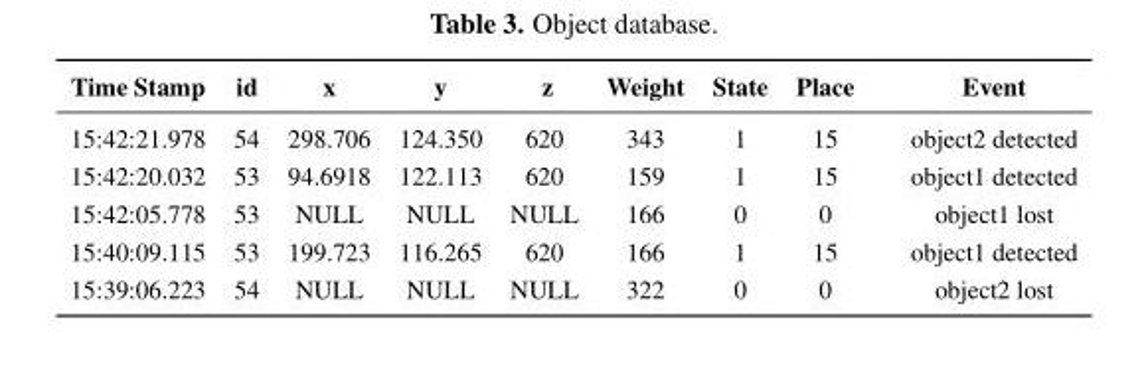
<table><thead><tr><td>Time Stamp</td><td>id</td><td>x</td><td>y</td><td>z</td><td>Weight</td><td>State</td><td>Place</td><td>Event</td></tr></thead><tbody><tr><td>15:42:21.978</td><td>54</td><td>298.706</td><td>124.350</td><td>620</td><td>343</td><td>1</td><td>15</td><td>object2 detected</td></tr><tr><td>15:42:20.032</td><td>53</td><td>94.6918</td><td>122.113</td><td>620</td><td>159</td><td>1</td><td>15</td><td>object1 detected</td></tr><tr><td>15:42:05.778</td><td>53</td><td>NULL</td><td>NULL</td><td>NULL</td><td>166</td><td>0</td><td>0</td><td>object1 lost</td></tr><tr><td>15:40:09.115</td><td>53</td><td>199.723</td><td>116.265</td><td>620</td><td>166</td><td>1</td><td>15</td><td>object1 detected</td></tr><tr><td>15:39:06.223</td><td>54</td><td>NULL</td><td>NULL</td><td>NULL</td><td>322</td><td>0</td><td>0</td><td>object2 lost</td></tr></tbody></table>